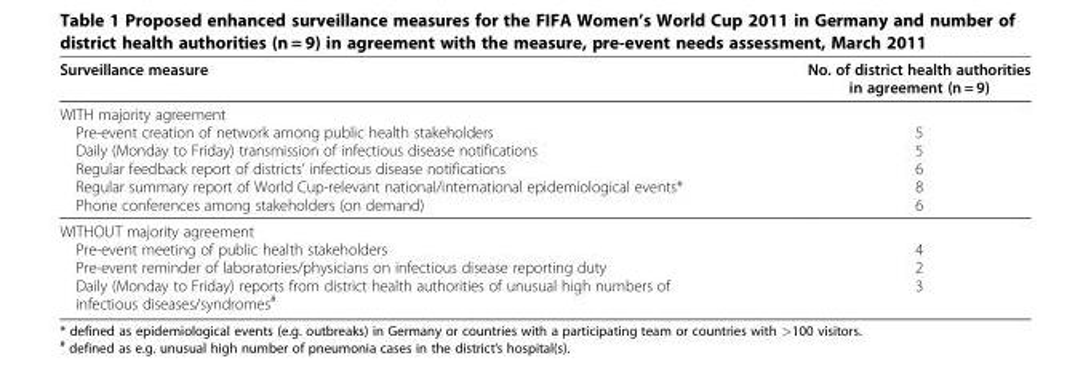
<table><thead><tr><td>Surveillance measure</td><td>No. of district health authorities in agreement (n = 9)</td></tr></thead><tbody><tr><td colspan="2">WITH majority agreement</td></tr><tr><td>Pre-event creation of network among public health stakeholders</td><td>5</td></tr><tr><td>Daily (Monday to Friday) transmission of infectious disease notifications</td><td>5</td></tr><tr><td>Regular feedback report of districts’ infectious disease notifications</td><td>6</td></tr><tr><td>Regular summary report of World Cup-relevant national/international epidemiological events*</td><td>8</td></tr><tr><td>Phone conferences among stakeholders (on demand)</td><td>6</td></tr><tr><td colspan="2">WITHOUT majority agreement</td></tr><tr><td>Pre-event meeting of public health stakeholders</td><td>4</td></tr><tr><td>Pre-event reminder of laboratories/physicians on infectious disease reporting duty</td><td>2</td></tr><tr><td>Daily (Monday to Friday) reports from district health authorities of unusual high numbers of infectious diseases/syndromes<sup>#</sup></td><td>3</td></tr></tbody></table>